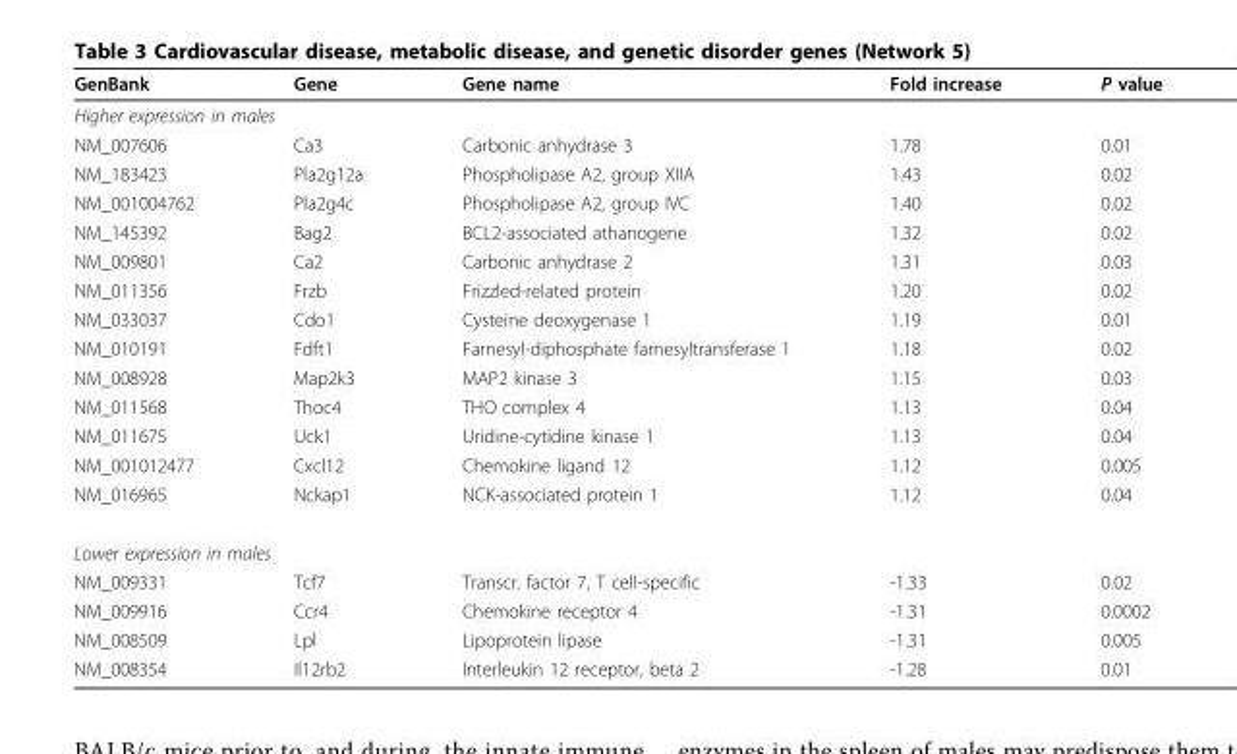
<table><thead><tr><td>GenBank</td><td>Gene</td><td>Gene name</td><td>Fold increase</td><td>P value</td></tr></thead><tbody><tr><td colspan="5">Higher expression in males</td></tr><tr><td>NM_007606</td><td>Ca3</td><td>Carbonic anhydrase 3</td><td>1.78</td><td>0.01</td></tr><tr><td>NM_183423</td><td>Pla2g12a</td><td>Phospholipase A2, group XIIA</td><td>1.43</td><td>0.02</td></tr><tr><td>NM_001004762</td><td>Pla2g4c</td><td>Phospholipase A2, group IVC</td><td>1.40</td><td>0.02</td></tr><tr><td>NM_145392</td><td>Bag2</td><td>BCL2-associated athanogene</td><td>1.32</td><td>0.02</td></tr><tr><td>NM_009801</td><td>Ca2</td><td>Carbonic anhydrase 2</td><td>1.31</td><td>0.03</td></tr><tr><td>NM_011356</td><td>Frzb</td><td>Frizzled-related protein</td><td>1.20</td><td>0.02</td></tr><tr><td>NM_033037</td><td>Cdo1</td><td>Cysteine deoxygenase 1</td><td>1.19</td><td>0.01</td></tr><tr><td>NM_010191</td><td>Fdft1</td><td>Farnesyl-diphosphate farnesyltransferase 1</td><td>1.18</td><td>0.02</td></tr><tr><td>NM_008928</td><td>Map2k3</td><td>MAP2 kinase 3</td><td>1.15</td><td>0.03</td></tr><tr><td>NM_011568</td><td>Thoc4</td><td>THO complex 4</td><td>1.13</td><td>0.04</td></tr><tr><td>NM_011675</td><td>Uck1</td><td>Uridine-cytidine kinase 1</td><td>1.13</td><td>0.04</td></tr><tr><td>NM_001012477</td><td>Cxcl12</td><td>Chemokine ligand 12</td><td>1.12</td><td>0.005</td></tr><tr><td>NM_016965</td><td>Nckap1</td><td>NCK-associated protein 1</td><td>1.12</td><td>0.04</td></tr><tr><td colspan="5">Lower expression in males</td></tr><tr><td>NM_009331</td><td>Tcf7</td><td>Transcr. factor 7, T cell-specific</td><td>-1.33</td><td>0.02</td></tr><tr><td>NM_009916</td><td>Ccr4</td><td>Chemokine receptor 4</td><td>-1.31</td><td>0.0002</td></tr><tr><td>NM_008509</td><td>Lpl</td><td>Lipoprotein lipase</td><td>-1.31</td><td>0.005</td></tr><tr><td>NM_008354</td><td>Il12rb2</td><td>Interleukin 12 receptor, beta 2</td><td>-1.28</td><td>0.01</td></tr></tbody></table>